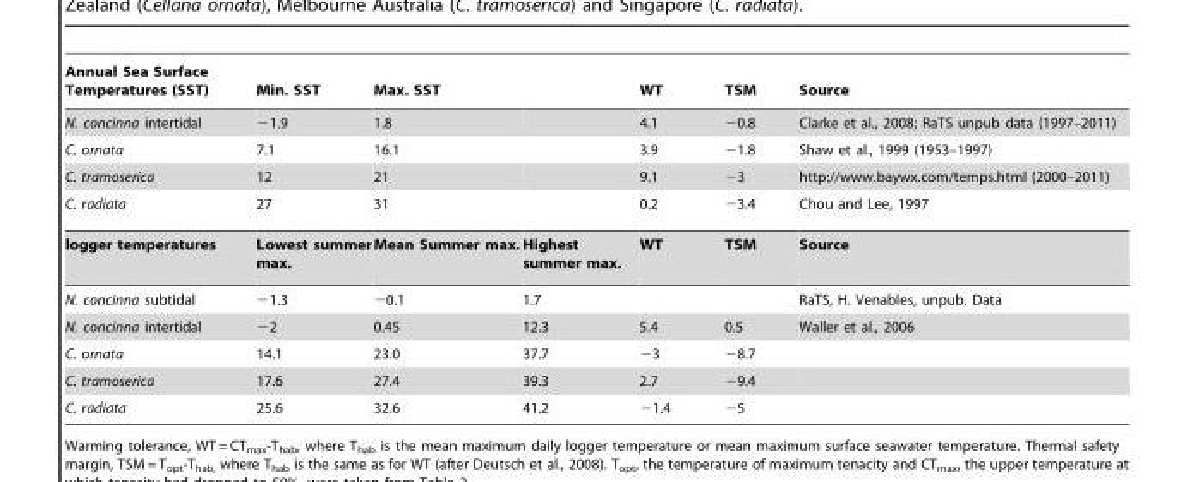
<table><thead><tr><td>Annual Sea Surface Temperatures (SST)</td><td>Min. SST</td><td>Max. SST</td><td></td><td>WT</td><td>TSM</td><td>Source</td></tr></thead><tbody><tr><td>N. concinna intertidal</td><td>−1.9</td><td>1.8</td><td></td><td>4.1</td><td>−0.8</td><td>Clarke et al., 2008; RaTS unpub data (1997–2011)</td></tr><tr><td>C. ornata</td><td>7.1</td><td>16.1</td><td></td><td>3.9</td><td>−1.8</td><td>Shaw et al., 1999 (1953–1997)</td></tr><tr><td>C. tramoserica</td><td>12</td><td>21</td><td></td><td>9.1</td><td>−3</td><td>http://www.baywx.com/temps.html (2000–2011)</td></tr><tr><td>C. radiata</td><td>27</td><td>31</td><td></td><td>0.2</td><td>−3.4</td><td>Chou and Lee, 1997</td></tr><tr><td>logger temperatures</td><td>Lowest summer max.</td><td>Mean Summer max.</td><td>Highest summer max.</td><td>WT</td><td>TSM</td><td>Source</td></tr><tr><td>N. concinna subtidal</td><td>−1.3</td><td>−0.1</td><td>1.7</td><td></td><td></td><td>RaTS, H. Venables, unpub. Data</td></tr><tr><td>N. concinna intertidal</td><td>−2</td><td>0.45</td><td>12.3</td><td>5.4</td><td>0.5</td><td>Waller et al., 2006</td></tr><tr><td>C. ornata</td><td>14.1</td><td>23.0</td><td>37.7</td><td>−3</td><td>−8.7</td><td></td></tr><tr><td>C. tramoserica</td><td>17.6</td><td>27.4</td><td>39.3</td><td>2.7</td><td>−9.4</td><td></td></tr><tr><td>C. radiata</td><td>25.6</td><td>32.6</td><td>41.2</td><td>−1.4</td><td>−5</td><td></td></tr></tbody></table>